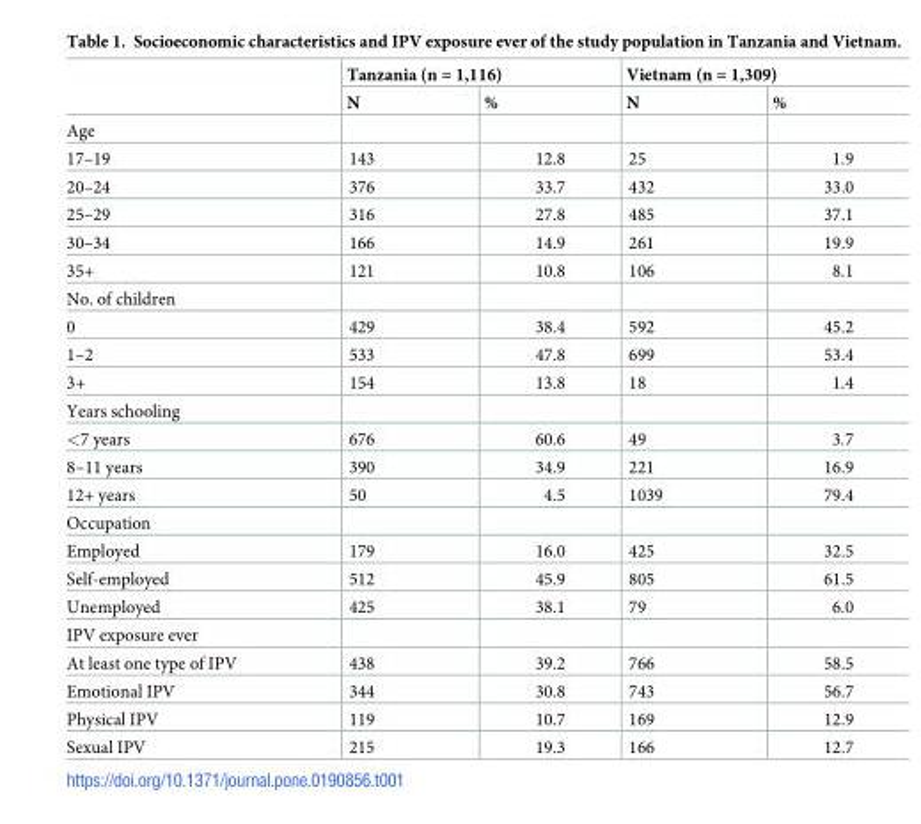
<table><thead><tr><td rowspan="2"></td><td colspan="2">Tanzania (n = 1,116)</td><td colspan="2">Vietnam (n = 1,309)</td></tr><tr><td>N</td><td>%</td><td>N</td><td>%</td></tr></thead><tbody><tr><td colspan="5">Age</td></tr><tr><td>17–19</td><td>143</td><td>12.8</td><td>25</td><td>1.9</td></tr><tr><td>20–24</td><td>376</td><td>33.7</td><td>432</td><td>33.0</td></tr><tr><td>25–29</td><td>316</td><td>27.8</td><td>485</td><td>37.1</td></tr><tr><td>30–34</td><td>166</td><td>14.9</td><td>261</td><td>19.9</td></tr><tr><td>35+</td><td>121</td><td>10.8</td><td>106</td><td>8.1</td></tr><tr><td colspan="5">No. of children</td></tr><tr><td>0</td><td>429</td><td>38.4</td><td>592</td><td>45.2</td></tr><tr><td>1–2</td><td>533</td><td>47.8</td><td>699</td><td>53.4</td></tr><tr><td>3+</td><td>154</td><td>13.8</td><td>18</td><td>1.4</td></tr><tr><td colspan="5">Years schooling</td></tr><tr><td>&lt;7 years</td><td>676</td><td>60.6</td><td>49</td><td>3.7</td></tr><tr><td>8–11 years</td><td>390</td><td>34.9</td><td>221</td><td>16.9</td></tr><tr><td>12+ years</td><td>50</td><td>4.5</td><td>1039</td><td>79.4</td></tr><tr><td colspan="5">Occupation</td></tr><tr><td>Employed</td><td>179</td><td>16.0</td><td>425</td><td>32.5</td></tr><tr><td>Self-employed</td><td>512</td><td>45.9</td><td>805</td><td>61.5</td></tr><tr><td>Unemployed</td><td>425</td><td>38.1</td><td>79</td><td>6.0</td></tr><tr><td colspan="5">IPV exposure ever</td></tr><tr><td>At least one type of IPV</td><td>438</td><td>39.2</td><td>766</td><td>58.5</td></tr><tr><td>Emotional IPV</td><td>344</td><td>30.8</td><td>743</td><td>56.7</td></tr><tr><td>Physical IPV</td><td>119</td><td>10.7</td><td>169</td><td>12.9</td></tr><tr><td>Sexual IPV</td><td>215</td><td>19.3</td><td>166</td><td>12.7</td></tr></tbody></table>